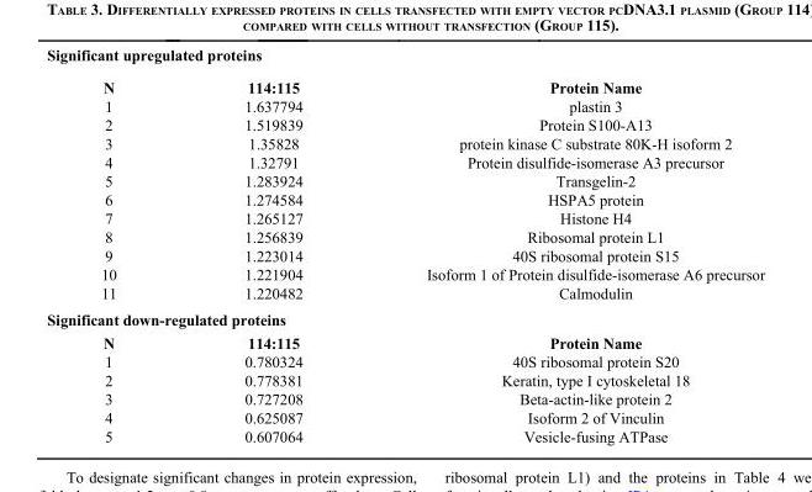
<table><thead><tr><td colspan="3">Significant upregulated proteins</td></tr><tr><td>N</td><td>114:115</td><td>Protein Name</td></tr></thead><tbody><tr><td>1</td><td>1.637794</td><td>plastin 3</td></tr><tr><td>2</td><td>1.519839</td><td>Protein S100-A13</td></tr><tr><td>3</td><td>1.35828</td><td>protein kinase C substrate 80K-H isoform 2</td></tr><tr><td>4</td><td>1.32791</td><td>Protein disulfide-isomerase A3 precursor</td></tr><tr><td>5</td><td>1.283924</td><td>Transgelin-2</td></tr><tr><td>6</td><td>1.274584</td><td>HSPA5 protein</td></tr><tr><td>7</td><td>1.265127</td><td>Histone H4</td></tr><tr><td>8</td><td>1.256839</td><td>Ribosomal protein L1</td></tr><tr><td>9</td><td>1.223014</td><td>40S ribosomal protein S15</td></tr><tr><td>10</td><td>1.221904</td><td>Isoform 1 of Protein disulfide-isomerase A6 precursor</td></tr><tr><td>11</td><td>1.220482</td><td>Calmodulin</td></tr><tr><td colspan="3">Significant down-regulated proteins</td></tr><tr><td>N</td><td>114:115</td><td>Protein Name</td></tr><tr><td>1</td><td>0.780324</td><td>40S ribosomal protein S20</td></tr><tr><td>2</td><td>0.778381</td><td>Keratin, type I cytoskeletal 18</td></tr><tr><td>3</td><td>0.727208</td><td>Beta-actin-like protein 2</td></tr><tr><td>4</td><td>0.625087</td><td>Isoform 2 of Vinculin</td></tr><tr><td>5</td><td>0.607064</td><td>Vesicle-fusing ATPase</td></tr></tbody></table>